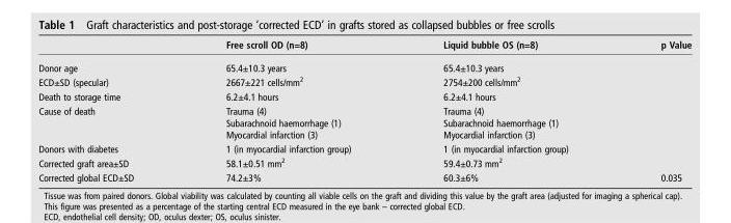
<table><thead><tr><td></td><td>Free scroll OD (n=8)</td><td>Liquid bubble OS (n=8)</td><td>p Value</td></tr></thead><tbody><tr><td>Donor age</td><td>65.4±10.3 years</td><td>65.4±10.3 years</td><td></td></tr><tr><td>ECD±SD (specular)</td><td>2667±221 cells/mm<sup>2</sup></td><td>2754±200 cells/mm<sup>2</sup></td><td></td></tr><tr><td>Death to storage time</td><td>6.2±4.1 hours</td><td>6.2±4.1 hours</td><td></td></tr><tr><td>Cause of death</td><td>Trauma (4) Subarachnoid haemorrhage (1) Myocardial infarction (3)</td><td>Trauma (4) Subarachnoid haemorrhage (1) Myocardial infarction (3)</td><td></td></tr><tr><td>Donors with diabetes</td><td>1 (in myocardial infarction group)</td><td>1 (in myocardial infarction group)</td><td></td></tr><tr><td>Corrected graft area±SD</td><td>58.1±0.51 mm<sup>2</sup></td><td>59.4±0.73 mm<sup>2</sup></td><td></td></tr><tr><td>Corrected global ECD±SD</td><td>74.2±3%</td><td>60.3±6%</td><td>0.035</td></tr></tbody></table>